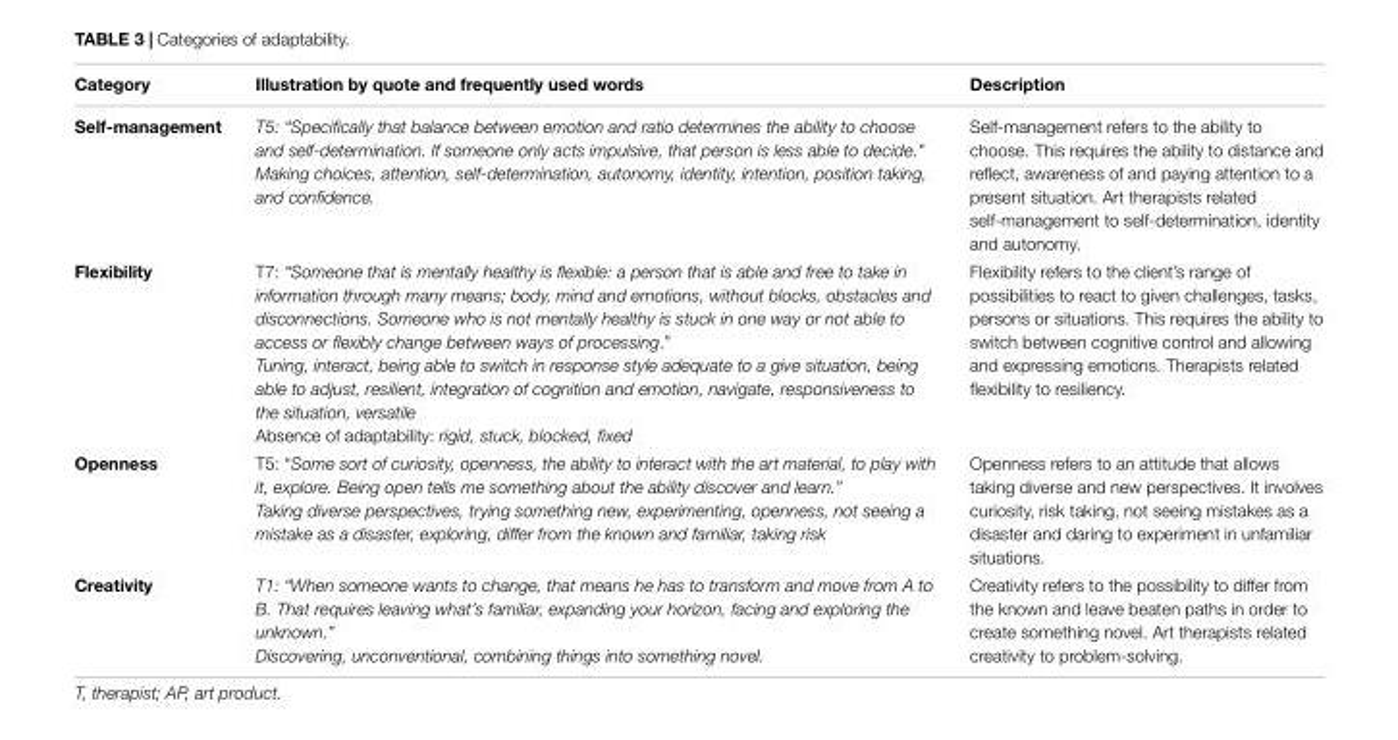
<table><thead><tr><td>Category</td><td>Illustration by quote and frequently used words</td><td>Description</td></tr></thead><tbody><tr><td>Self-management</td><td>T5: “Specifically that balance between emotion and ratio determines the ability to choose and self-determination. If someone only acts impulsive, that person is less able to decide.” Making choices, attention, self-determination, autonomy, identity, intention, position taking, and confidence.</td><td>Self-management refers to the ability to choose. This requires the ability to distance and reflect, awareness of and paying attention to a present situation. Art therapists related self-management to self-determination, identity and autonomy.</td></tr><tr><td>Flexibility</td><td>T7: “Someone that is mentally healthy is flexible: a person that is able and free to take in information through many means; body, mind and emotions, without blocks, obstacles and disconnections. Someone who is not mentally healthy is stuck in one way or not able to access or flexibly change between ways of processing.” Tuning, interact, being able to switch in response style adequate to a give situation, being able to adjust, resilient, integration of cognition and emotion, navigate, responsiveness to the situation, versatile Absence of adaptability: rigid, stuck, blocked, fixed</td><td>Flexibility refers to the client’s range of possibilities to react to given challenges, tasks, persons or situations. This requires the ability to switch between cognitive control and allowing and expressing emotions. Therapists related flexibility to resiliency.</td></tr><tr><td>Openness</td><td>T5: “Some sort of curiosity, openness, the ability to interact with the art material, to play with it, explore. Being open tells me something about the ability discover and learn.” Taking diverse perspectives, trying something new, experimenting, openness, not seeing a mistake as a disaster, exploring, differ from the known and familiar, taking risk</td><td>Openness refers to an attitude that allows taking diverse and new perspectives. It involves curiosity, risk taking, not seeing mistakes as a disaster and daring to experiment in unfamiliar situations.</td></tr><tr><td>Creativity</td><td>T1: “When someone wants to change, that means he has to transform and move from A to B. That requires leaving what’s familiar, expanding your horizon, facing and exploring the unknown.” Discovering, unconventional, combining things into something novel.</td><td>Creativity refers to the possibility to differ from the known and leave beaten paths in order to create something novel. Art therapists related creativity to problem-solving.</td></tr></tbody></table>